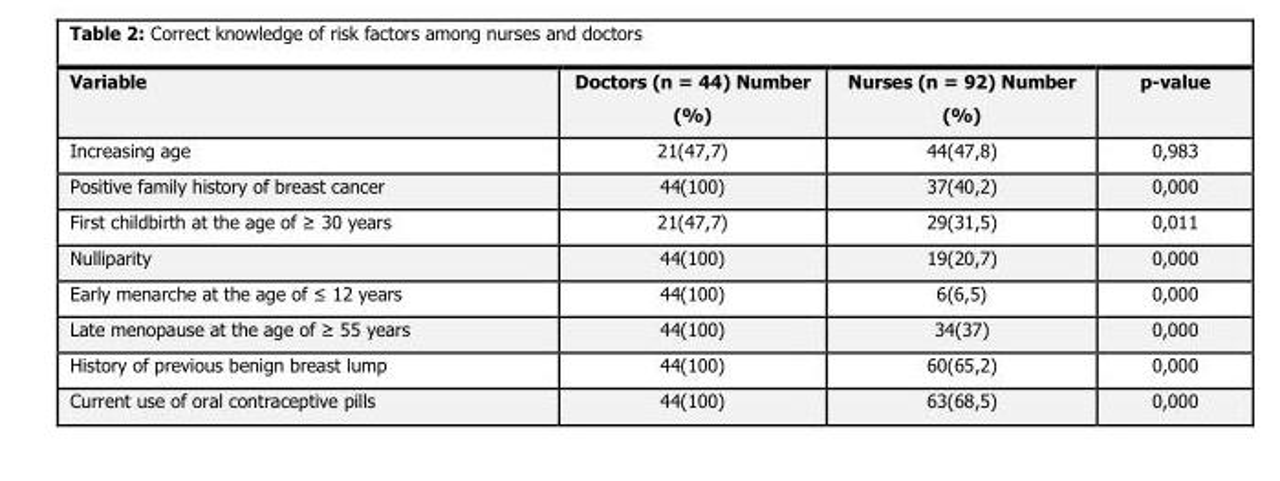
<table><thead><tr><td>Variable</td><td>Doctors (n = 44) Number (%)</td><td>Nurses (n = 92) Number (%)</td><td>p-value</td></tr></thead><tbody><tr><td>Increasing age</td><td>21(47,7)</td><td>44(47,8)</td><td>0,983</td></tr><tr><td>Positive family history of breast cancer</td><td>44(100)</td><td>37(40,2)</td><td>0,000</td></tr><tr><td>First childbirth at the age of ≥ 30 years</td><td>21(47,7)</td><td>29(31,5)</td><td>0,011</td></tr><tr><td>Nulliparity</td><td>44(100)</td><td>19(20,7)</td><td>0,000</td></tr><tr><td>Early menarche at the age of ≤ 12 years</td><td>44(100)</td><td>6(6,5)</td><td>0,000</td></tr><tr><td>Late menopause at the age of ≥ 55 years</td><td>44(100)</td><td>34(37)</td><td>0,000</td></tr><tr><td>History of previous benign breast lump</td><td>44(100)</td><td>60(65,2)</td><td>0,000</td></tr><tr><td>Current use of oral contraceptive pills</td><td>44(100)</td><td>63(68,5)</td><td>0,000</td></tr></tbody></table>